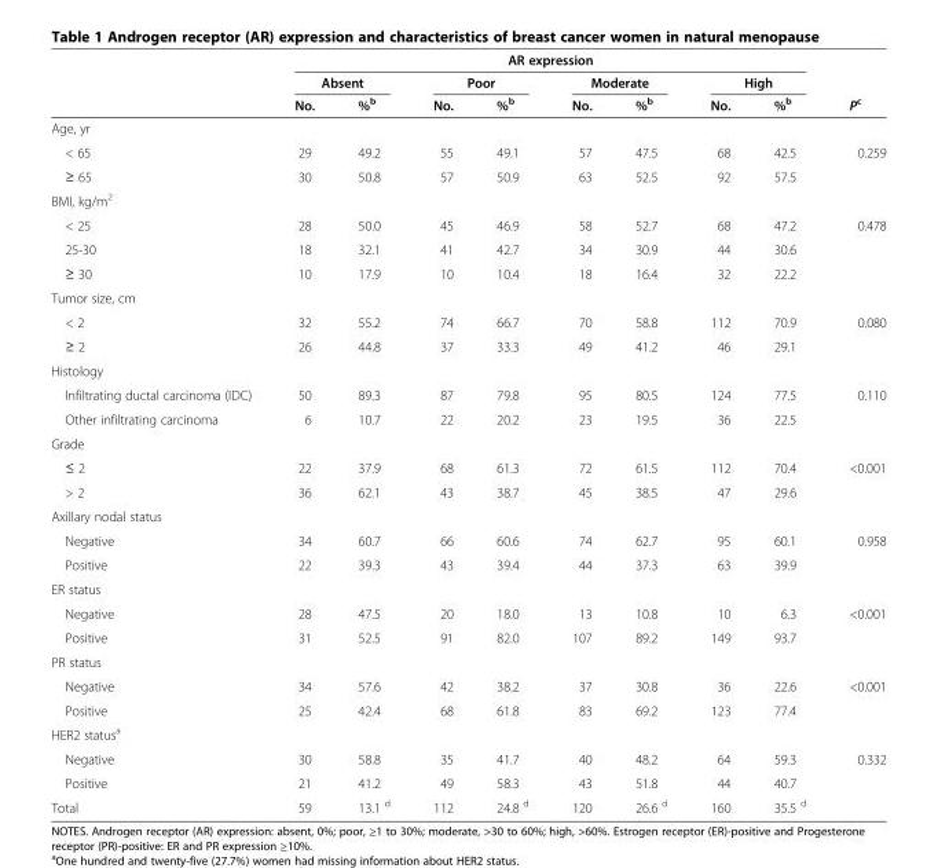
<table><thead><tr><td rowspan="3"></td><td colspan="8">AR expression</td><td rowspan="3">P<sup>c</sup></td></tr><tr><td colspan="2">Absent</td><td colspan="2">Poor</td><td colspan="2">Moderate</td><td colspan="2">High</td></tr><tr><td>No.</td><td>%<sup>b</sup></td><td>No.</td><td>%<sup>b</sup></td><td>No.</td><td>%<sup>b</sup></td><td>No.</td><td>%<sup>b</sup></td></tr></thead><tbody><tr><td colspan="10">Age, yr</td></tr><tr><td>&lt; 65</td><td>29</td><td>49.2</td><td>55</td><td>49.1</td><td>57</td><td>47.5</td><td>68</td><td>42.5</td><td rowspan="2">0.259</td></tr><tr><td>≥ 65</td><td>30</td><td>50.8</td><td>57</td><td>50.9</td><td>63</td><td>52.5</td><td>92</td><td>57.5</td></tr><tr><td colspan="10">BMI, kg/m<sup>2</sup></td></tr><tr><td>&lt; 25</td><td>28</td><td>50.0</td><td>45</td><td>46.9</td><td>58</td><td>52.7</td><td>68</td><td>47.2</td><td rowspan="3">0.478</td></tr><tr><td>25-30</td><td>18</td><td>32.1</td><td>41</td><td>42.7</td><td>34</td><td>30.9</td><td>44</td><td>30.6</td></tr><tr><td>≥ 30</td><td>10</td><td>17.9</td><td>10</td><td>10.4</td><td>18</td><td>16.4</td><td>32</td><td>22.2</td></tr><tr><td colspan="10">Tumor size, cm</td></tr><tr><td>&lt; 2</td><td>32</td><td>55.2</td><td>74</td><td>66.7</td><td>70</td><td>58.8</td><td>112</td><td>70.9</td><td rowspan="2">0.080</td></tr><tr><td>≥ 2</td><td>26</td><td>44.8</td><td>37</td><td>33.3</td><td>49</td><td>41.2</td><td>46</td><td>29.1</td></tr><tr><td colspan="10">Histology</td></tr><tr><td>Infiltrating ductal carcinoma (IDC)</td><td>50</td><td>89.3</td><td>87</td><td>79.8</td><td>95</td><td>80.5</td><td>124</td><td>77.5</td><td rowspan="2">0.110</td></tr><tr><td>Other infiltrating carcinoma</td><td>6</td><td>10.7</td><td>22</td><td>20.2</td><td>23</td><td>19.5</td><td>36</td><td>22.5</td></tr><tr><td colspan="10">Grade</td></tr><tr><td>≤ 2</td><td>22</td><td>37.9</td><td>68</td><td>61.3</td><td>72</td><td>61.5</td><td>112</td><td>70.4</td><td rowspan="2">&lt;0.001</td></tr><tr><td>&gt; 2</td><td>36</td><td>62.1</td><td>43</td><td>38.7</td><td>45</td><td>38.5</td><td>47</td><td>29.6</td></tr><tr><td colspan="10">Axillary nodal status</td></tr><tr><td>Negative</td><td>34</td><td>60.7</td><td>66</td><td>60.6</td><td>74</td><td>62.7</td><td>95</td><td>60.1</td><td rowspan="2">0.958</td></tr><tr><td>Positive</td><td>22</td><td>39.3</td><td>43</td><td>39.4</td><td>44</td><td>37.3</td><td>63</td><td>39.9</td></tr><tr><td colspan="10">ER status</td></tr><tr><td>Negative</td><td>28</td><td>47.5</td><td>20</td><td>18.0</td><td>13</td><td>10.8</td><td>10</td><td>6.3</td><td rowspan="2">&lt;0.001</td></tr><tr><td>Positive</td><td>31</td><td>52.5</td><td>91</td><td>82.0</td><td>107</td><td>89.2</td><td>149</td><td>93.7</td></tr><tr><td colspan="10">PR status</td></tr><tr><td>Negative</td><td>34</td><td>57.6</td><td>42</td><td>38.2</td><td>37</td><td>30.8</td><td>36</td><td>22.6</td><td rowspan="2">&lt;0.001</td></tr><tr><td>Positive</td><td>25</td><td>42.4</td><td>68</td><td>61.8</td><td>83</td><td>69.2</td><td>123</td><td>77.4</td></tr><tr><td colspan="10">HER2 status<sup>a</sup></td></tr><tr><td>Negative</td><td>30</td><td>58.8</td><td>35</td><td>41.7</td><td>40</td><td>48.2</td><td>64</td><td>59.3</td><td rowspan="2">0.332</td></tr><tr><td>Positive</td><td>21</td><td>41.2</td><td>49</td><td>58.3</td><td>43</td><td>51.8</td><td>44</td><td>40.7</td></tr><tr><td>Total</td><td>59</td><td>13.1 <sup>d</sup></td><td>112</td><td>24.8 <sup>d</sup></td><td>120</td><td>26.6 <sup>d</sup></td><td>160</td><td>35.5 <sup>d</sup></td><td></td></tr></tbody></table>